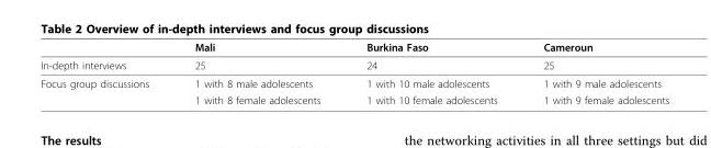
<table><thead><tr><td></td><td>Mali</td><td>Burkina Faso</td><td>Cameroun</td></tr></thead><tbody><tr><td>In-depth interviews</td><td>25</td><td>24</td><td>25</td></tr><tr><td rowspan="2">Focus group discussions</td><td>1 with 8 male adolescents</td><td>1 with 10 male adolescents</td><td>1 with 9 male adolescents</td></tr><tr><td>1 with 8 female adolescents</td><td>1 with 10 female adolescents</td><td>1 with 9 female adolescents</td></tr></tbody></table>